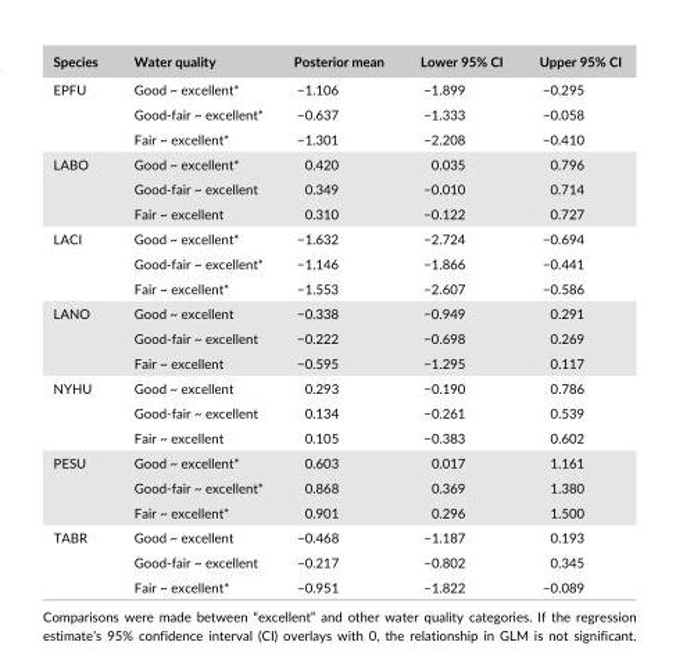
<table><thead><tr><td>Species</td><td>Water quality</td><td>Posterior mean</td><td>Lower 95% CI</td><td>Upper 95% CI</td></tr></thead><tbody><tr><td rowspan="3">EPFU</td><td>Good ~ excellent*</td><td>−1.106</td><td>−1.899</td><td>−0.295</td></tr><tr><td>Good- fair ~ excellent*</td><td>−0.637</td><td>−1.333</td><td>−0.058</td></tr><tr><td>Fair ~ excellent*</td><td>−1.301</td><td>−2.208</td><td>−0.410</td></tr><tr><td rowspan="3">LABO</td><td>Good ~ excellent*</td><td>0.420</td><td>0.035</td><td>0.796</td></tr><tr><td>Good- fair ~ excellent</td><td>0.349</td><td>−0.010</td><td>0.714</td></tr><tr><td>Fair ~ excellent</td><td>0.310</td><td>−0.122</td><td>0.727</td></tr><tr><td rowspan="3">LACI</td><td>Good ~ excellent*</td><td>−1.632</td><td>−2.724</td><td>−0.694</td></tr><tr><td>Good- fair ~ excellent*</td><td>−1.146</td><td>−1.866</td><td>−0.441</td></tr><tr><td>Fair ~ excellent*</td><td>−1.553</td><td>−2.607</td><td>−0.586</td></tr><tr><td rowspan="3">LANO</td><td>Good ~ excellent</td><td>−0.338</td><td>−0.949</td><td>0.291</td></tr><tr><td>Good- fair ~ excellent</td><td>−0.222</td><td>−0.698</td><td>0.269</td></tr><tr><td>Fair ~ excellent</td><td>−0.595</td><td>−1.295</td><td>0.117</td></tr><tr><td rowspan="3">NYHU</td><td>Good ~ excellent</td><td>0.293</td><td>−0.190</td><td>0.786</td></tr><tr><td>Good- fair ~ excellent</td><td>0.134</td><td>−0.261</td><td>0.539</td></tr><tr><td>Fair ~ excellent</td><td>0.105</td><td>−0.383</td><td>0.602</td></tr><tr><td rowspan="3">PESU</td><td>Good ~ excellent*</td><td>0.603</td><td>0.017</td><td>1.161</td></tr><tr><td>Good- fair ~ excellent*</td><td>0.868</td><td>0.369</td><td>1.380</td></tr><tr><td>Fair ~ excellent*</td><td>0.901</td><td>0.296</td><td>1.500</td></tr><tr><td rowspan="3">TABR</td><td>Good ~ excellent</td><td>−0.468</td><td>−1.187</td><td>0.193</td></tr><tr><td>Good- fair ~ excellent</td><td>−0.217</td><td>−0.802</td><td>0.345</td></tr><tr><td>Fair ~ excellent*</td><td>−0.951</td><td>−1.822</td><td>−0.089</td></tr></tbody></table>